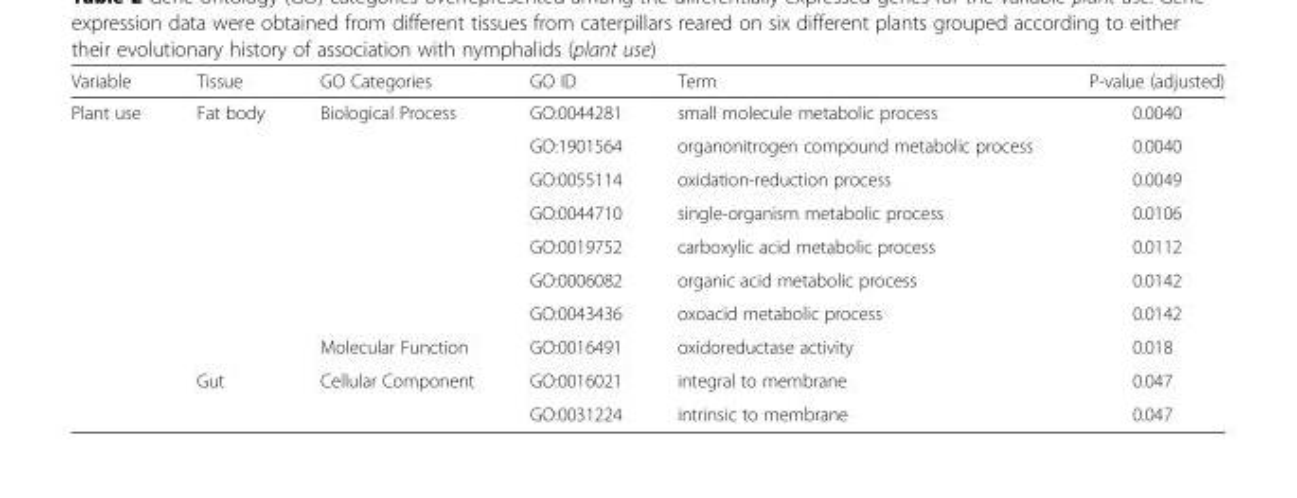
<table><thead><tr><td>Variable</td><td>Tissue</td><td>GO Categories</td><td>GO ID</td><td>Term</td><td>P-value (adjusted)</td></tr></thead><tbody><tr><td rowspan="10">Plant use</td><td rowspan="8">Fat body</td><td rowspan="7">Biological Process</td><td>GO:0044281</td><td>small molecule metabolic process</td><td>0.0040</td></tr><tr><td>GO:1901564</td><td>organonitrogen compound metabolic process</td><td>0.0040</td></tr><tr><td>GO:0055114</td><td>oxidation-reduction process</td><td>0.0049</td></tr><tr><td>GO:0044710</td><td>single-organism metabolic process</td><td>0.0106</td></tr><tr><td>GO:0019752</td><td>carboxylic acid metabolic process</td><td>0.0112</td></tr><tr><td>GO:0006082</td><td>organic acid metabolic process</td><td>0.0142</td></tr><tr><td>GO:0043436</td><td>oxoacid metabolic process</td><td>0.0142</td></tr><tr><td>Molecular Function</td><td>GO:0016491</td><td>oxidoreductase activity</td><td>0.018</td></tr><tr><td rowspan="2">Gut</td><td rowspan="2">Cellular Component</td><td>GO:0016021</td><td>integral to membrane</td><td>0.047</td></tr><tr><td>GO:0031224</td><td>intrinsic to membrane</td><td>0.047</td></tr></tbody></table>